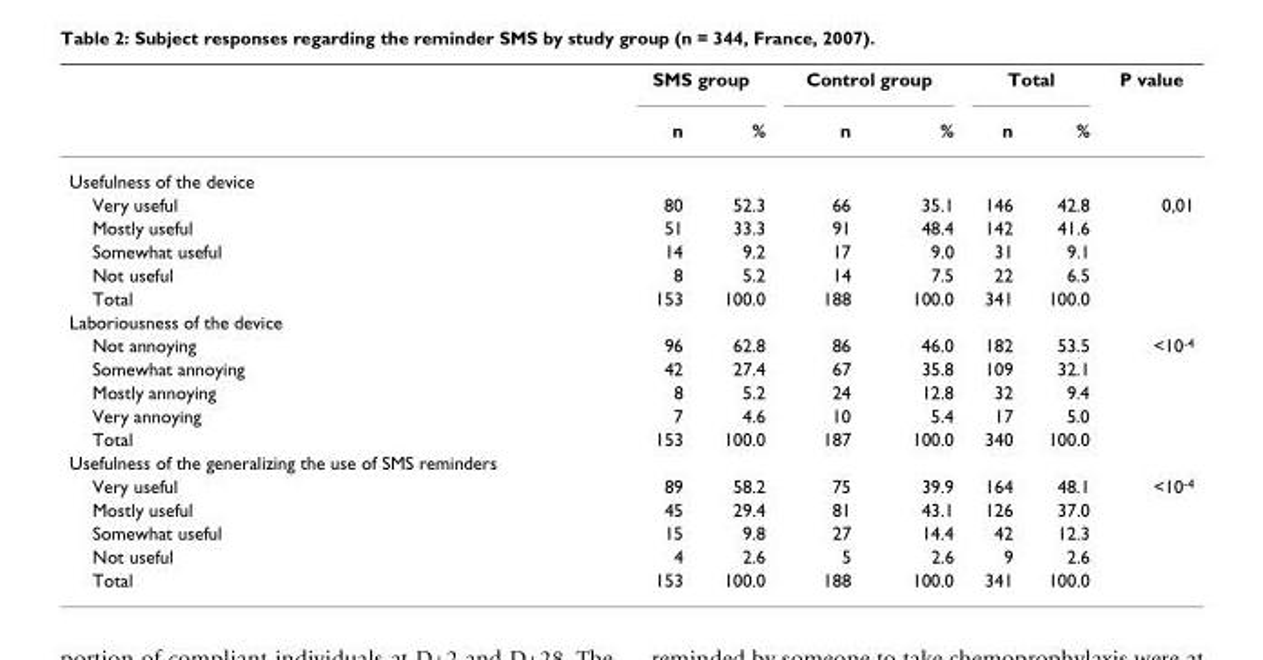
<table><thead><tr><td rowspan="2"></td><td colspan="2">SMS group</td><td colspan="2">Control group</td><td colspan="2">Total</td><td rowspan="2">P value</td></tr><tr><td>n</td><td>%</td><td>n</td><td>%</td><td>n</td><td>%</td></tr></thead><tbody><tr><td colspan="8">Usefulness of the device</td></tr><tr><td>Very useful</td><td>80</td><td>52.3</td><td>66</td><td>35.1</td><td>146</td><td>42.8</td><td>0,01</td></tr><tr><td>Mostly useful</td><td>51</td><td>33.3</td><td>91</td><td>48.4</td><td>142</td><td>41.6</td><td></td></tr><tr><td>Somewhat useful</td><td>14</td><td>9.2</td><td>17</td><td>9.0</td><td>31</td><td>9.1</td><td></td></tr><tr><td>Not useful</td><td>8</td><td>5.2</td><td>14</td><td>7.5</td><td>22</td><td>6.5</td><td></td></tr><tr><td>Total</td><td>153</td><td>100.0</td><td>188</td><td>100.0</td><td>341</td><td>100.0</td><td></td></tr><tr><td colspan="8">Laboriousness of the device</td></tr><tr><td>Not annoying</td><td>96</td><td>62.8</td><td>86</td><td>46.0</td><td>182</td><td>53.5</td><td>&lt;10<sup>-4</sup></td></tr><tr><td>Somewhat annoying</td><td>42</td><td>27.4</td><td>67</td><td>35.8</td><td>109</td><td>32.1</td><td></td></tr><tr><td>Mostly annoying</td><td>8</td><td>5.2</td><td>24</td><td>12.8</td><td>32</td><td>9.4</td><td></td></tr><tr><td>Very annoying</td><td>7</td><td>4.6</td><td>10</td><td>5.4</td><td>17</td><td>5.0</td><td></td></tr><tr><td>Total</td><td>153</td><td>100.0</td><td>187</td><td>100.0</td><td>340</td><td>100.0</td><td></td></tr><tr><td colspan="8">Usefulness of the generalizing the use of SMS reminders</td></tr><tr><td>Very useful</td><td>89</td><td>58.2</td><td>75</td><td>39.9</td><td>164</td><td>48.1</td><td>&lt;10<sup>-4</sup></td></tr><tr><td>Mostly useful</td><td>45</td><td>29.4</td><td>81</td><td>43.1</td><td>126</td><td>37.0</td><td></td></tr><tr><td>Somewhat useful</td><td>15</td><td>9.8</td><td>27</td><td>14.4</td><td>42</td><td>12.3</td><td></td></tr><tr><td>Not useful</td><td>4</td><td>2.6</td><td>5</td><td>2.6</td><td>9</td><td>2.6</td><td></td></tr><tr><td>Total</td><td>153</td><td>100.0</td><td>188</td><td>100.0</td><td>341</td><td>100.0</td><td></td></tr></tbody></table>